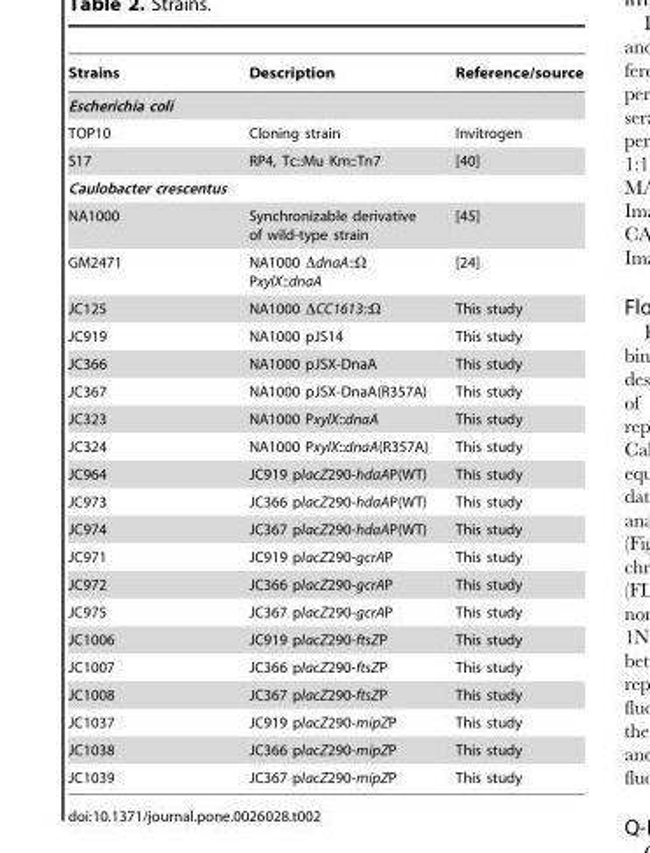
<table><thead><tr><td>Strains</td><td>Description</td><td>Reference/source</td></tr></thead><tbody><tr><td colspan="3">Escherichia coli</td></tr><tr><td>TOP10</td><td>Cloning strain</td><td>Invitrogen</td></tr><tr><td>S17</td><td>RP4, Tc::Mu Km::Tn7</td><td>[40]</td></tr><tr><td colspan="3">Caulobacter crescentus</td></tr><tr><td>NA1000</td><td>Synchronizable derivative of wild-type strain</td><td>[45]</td></tr><tr><td>GM2471</td><td>NA1000 ΔdnaA::Ω PxylX::dnaA</td><td>[24]</td></tr><tr><td>JC125</td><td>NA1000 ΔCC1613::Ω</td><td>This study</td></tr><tr><td>JC919</td><td>NA1000 pJS14</td><td>This study</td></tr><tr><td>JC366</td><td>NA1000 pJSX-DnaA</td><td>This study</td></tr><tr><td>JC367</td><td>NA1000 pJSX-DnaA(R357A)</td><td>This study</td></tr><tr><td>JC323</td><td>NA1000 PxylX::dnaA</td><td>This study</td></tr><tr><td>JC324</td><td>NA1000 PxylX::dnaA(R357A)</td><td>This study</td></tr><tr><td>JC964</td><td>JC919 placZ290-hdaAP(WT)</td><td>This study</td></tr><tr><td>JC973</td><td>JC366 placZ290-hdaAP(WT)</td><td>This study</td></tr><tr><td>JC974</td><td>JC367 placZ290-hdaAP(WT)</td><td>This study</td></tr><tr><td>JC971</td><td>JC919 placZ290-gcrAP</td><td>This study</td></tr><tr><td>JC972</td><td>JC366 placZ290-gcrAP</td><td>This study</td></tr><tr><td>JC975</td><td>JC367 placZ290-gcrAP</td><td>This study</td></tr><tr><td>JC1006</td><td>JC919 placZ290-ftsZP</td><td>This study</td></tr><tr><td>JC1007</td><td>JC366 placZ290-ftsZP</td><td>This study</td></tr><tr><td>JC1008</td><td>JC367 placZ290-ftsZP</td><td>This study</td></tr><tr><td>JC1037</td><td>JC919 placZ290-mipZP</td><td>This study</td></tr><tr><td>JC1038</td><td>JC366 placZ290-mipZP</td><td>This study</td></tr><tr><td>JC1039</td><td>JC367 placZ290-mipZP</td><td>This study</td></tr></tbody></table>